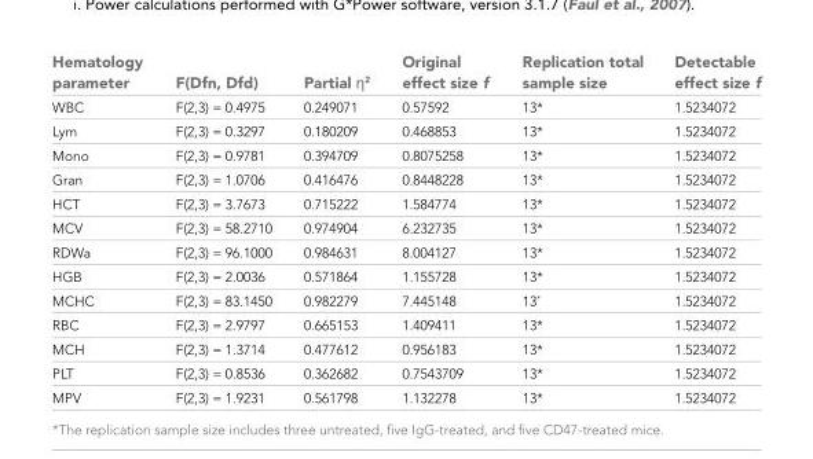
<table><thead><tr><td>Hematology parameter</td><td>F(Dfn, Dfd)</td><td>Partial η<sup>2</sup></td><td>Original effect size f</td><td>Replication total sample size</td><td>Detectable effect size f</td></tr></thead><tbody><tr><td>WBC</td><td>F(2,3) = 0.4975</td><td>0.249071</td><td>0.57592</td><td>13*</td><td>1.5234072</td></tr><tr><td>Lym</td><td>F(2,3) = 0.3297</td><td>0.180209</td><td>0.468853</td><td>13*</td><td>1.5234072</td></tr><tr><td>Mono</td><td>F(2,3) = 0.9781</td><td>0.394709</td><td>0.8075258</td><td>13*</td><td>1.5234072</td></tr><tr><td>Gran</td><td>F(2,3) = 1.0706</td><td>0.416476</td><td>0.8448228</td><td>13*</td><td>1.5234072</td></tr><tr><td>HCT</td><td>F(2,3) = 3.7673</td><td>0.715222</td><td>1.584774</td><td>13*</td><td>1.5234072</td></tr><tr><td>MCV</td><td>F(2,3) = 58.2710</td><td>0.974904</td><td>6.232735</td><td>13*</td><td>1.5234072</td></tr><tr><td>RDWa</td><td>F(2,3) = 96.1000</td><td>0.984631</td><td>8.004127</td><td>13*</td><td>1.5234072</td></tr><tr><td>HGB</td><td>F(2,3) = 2.0036</td><td>0.571864</td><td>1.155728</td><td>13*</td><td>1.5234072</td></tr><tr><td>MCHC</td><td>F(2,3) = 83.1450</td><td>0.982279</td><td>7.445148</td><td>13*</td><td>1.5234072</td></tr><tr><td>RBC</td><td>F(2,3) = 2.9797</td><td>0.665153</td><td>1.409411</td><td>13*</td><td>1.5234072</td></tr><tr><td>MCH</td><td>F(2,3) = 1.3714</td><td>0.477612</td><td>0.956183</td><td>13*</td><td>1.5234072</td></tr><tr><td>PLT</td><td>F(2,3) = 0.8536</td><td>0.362682</td><td>0.7543709</td><td>13*</td><td>1.5234072</td></tr><tr><td>MPV</td><td>F(2,3) = 1.9231</td><td>0.561798</td><td>1.132278</td><td>13*</td><td>1.5234072</td></tr></tbody></table>